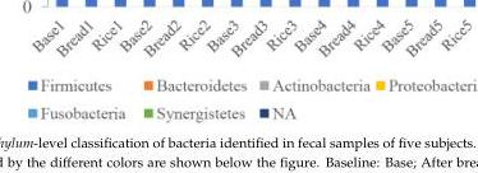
<table><thead><tr><td></td><td>Baseline (n = 7)</td><td>Bread (n = 7)</td><td>Rice (n = 7)</td></tr></thead><tbody><tr><td>Bifidobacterium (%)</td><td>15.3 ± 13.2</td><td>19.2 ± 14.5 *</td><td>6.2 ± 6.6</td></tr><tr><td>Collinsella (%)</td><td>3.2 ± 3.9</td><td>3.5 ± 4.5</td><td>2.3 ± 2.8</td></tr><tr><td>Eggerthella (%)</td><td>0.3 ± 0.3</td><td>0.1 ± 0.1</td><td>0.3 ± 0.3</td></tr><tr><td>Actinomyces (%)</td><td>0.1 ± 0.05</td><td>0.1 ± 0.1</td><td>0.1 ± 0.05</td></tr></tbody></table>